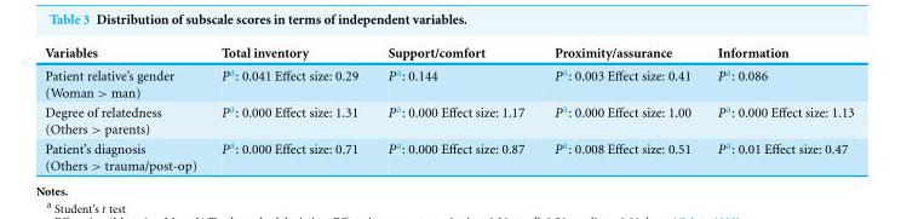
<table><thead><tr><td>Variables</td><td>Total inventory</td><td>Support/comfort</td><td>Proximity/assurance</td><td>Information</td></tr></thead><tbody><tr><td>Patient relative’s gender (Woman &gt; man)</td><td>P<sup>a</sup>: 0.041 Effect size: 0.29</td><td>P<sup>a</sup>: 0.144</td><td>P<sup>a</sup>: 0.003 Effect size: 0.41</td><td>P<sup>a</sup>: 0.086</td></tr><tr><td>Degree of relatedness (Others &gt; parents)</td><td>P<sup>a</sup>: 0.000 Effect size: 1.31</td><td>P<sup>a</sup>: 0.000 Effect size: 1.17</td><td>P<sup>a</sup>: 0.000 Effect size: 1.00</td><td>P<sup>a</sup>: 0.000 Effect size: 1.13</td></tr><tr><td>Patient’s diagnosis (Others &gt; trauma/post-op)</td><td>P<sup>a</sup>: 0.000 Effect size: 0.71</td><td>P<sup>a</sup>: 0.000 Effect size: 0.87</td><td>P<sup>a</sup>: 0.008 Effect size: 0.51</td><td>P<sup>a</sup>: 0.01 Effect size: 0.47</td></tr></tbody></table>